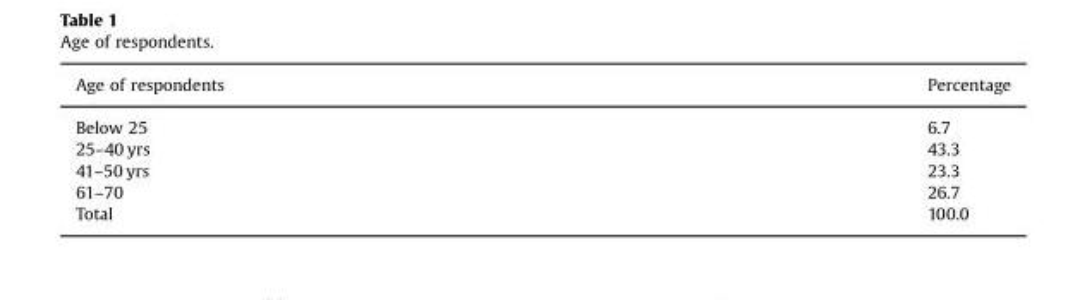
<table><thead><tr><td>Age of respondents</td><td>Percentage</td></tr></thead><tbody><tr><td>Below 25</td><td>6.7</td></tr><tr><td>25–40 yrs</td><td>43.3</td></tr><tr><td>41–50 yrs</td><td>23.3</td></tr><tr><td>61–70</td><td>26.7</td></tr><tr><td>Total</td><td>100.0</td></tr></tbody></table>